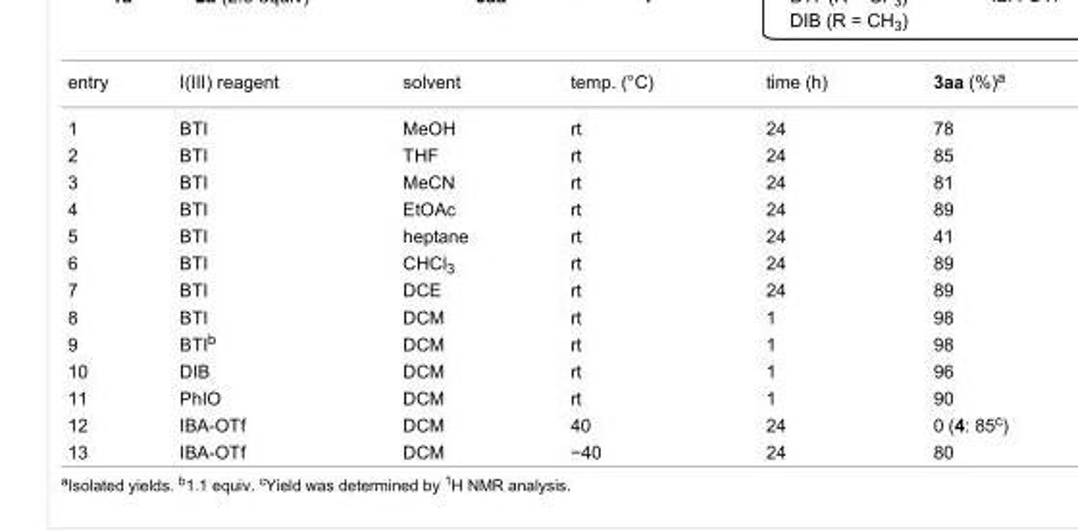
<table><tbody><tr><td>entry</td><td>I(III) reagent</td><td>solvent</td><td>temp. (°C)</td><td>time (h)</td><td>3aa (%)<sup>a</sup></td></tr><tr><td>1</td><td>BTI</td><td>MeOH</td><td>rt</td><td>24</td><td>78</td></tr><tr><td>2</td><td>BTI</td><td>THF</td><td>rt</td><td>24</td><td>85</td></tr><tr><td>3</td><td>BTI</td><td>MeCN</td><td>rt</td><td>24</td><td>81</td></tr><tr><td>4</td><td>BTI</td><td>EtOAc</td><td>rt</td><td>24</td><td>89</td></tr><tr><td>5</td><td>BTI</td><td>heptane</td><td>rt</td><td>24</td><td>41</td></tr><tr><td>6</td><td>BTI</td><td>CHCl<sub>3</sub></td><td>rt</td><td>24</td><td>89</td></tr><tr><td>7</td><td>BTI</td><td>DCE</td><td>rt</td><td>24</td><td>89</td></tr><tr><td>8</td><td>BTI</td><td>DCM</td><td>rt</td><td>1</td><td>98</td></tr><tr><td>9</td><td>BTI<sup>b</sup></td><td>DCM</td><td>rt</td><td>1</td><td>98</td></tr><tr><td>10</td><td>DIB</td><td>DCM</td><td>rt</td><td>1</td><td>96</td></tr><tr><td>11</td><td>PhIO</td><td>DCM</td><td>rt</td><td>1</td><td>90</td></tr><tr><td>12</td><td>IBA-OTf</td><td>DCM</td><td>40</td><td>24</td><td>0 (4: 85<sup>c</sup>)</td></tr><tr><td>13</td><td>IBA-OTf</td><td>DCM</td><td>−40</td><td>24</td><td>80</td></tr></tbody></table>